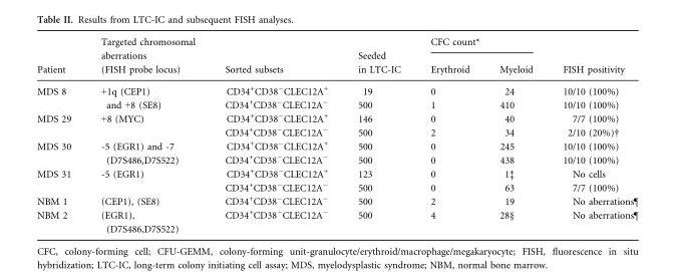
<table><thead><tr><td rowspan="2">Patient</td><td rowspan="2">Targeted chromosomal aberrations (FISH probe locus)</td><td rowspan="2">Sorted subsets</td><td rowspan="2">Seeded in LTC-IC</td><td colspan="2">CFC count*</td><td rowspan="2">FISH positivity</td></tr><tr><td>Erythroid</td><td>Myeloid</td></tr></thead><tbody><tr><td rowspan="2">MDS 8</td><td rowspan="2">+1q (CEP1) and +8 (SE8)</td><td>CD34<sup>+</sup>CD38<sup>−</sup>CLEC12A<sup>+</sup></td><td>19</td><td>0</td><td>24</td><td>10/10 (100%)</td></tr><tr><td>CD34<sup>+</sup>CD38<sup>−</sup>CLEC12A<sup>−</sup></td><td>500</td><td>1</td><td>410</td><td>10/10 (100%)</td></tr><tr><td rowspan="2">MDS 29</td><td rowspan="2">+8 (MYC)</td><td>CD34<sup>+</sup>CD38<sup>−</sup>CLEC12A<sup>+</sup></td><td>146</td><td>0</td><td>40</td><td>7/7 (100%)</td></tr><tr><td>CD34<sup>+</sup>CD38<sup>−</sup>CLEC12A<sup>−</sup></td><td>500</td><td>2</td><td>34</td><td>2/10 (20%)†</td></tr><tr><td rowspan="2">MDS 30</td><td rowspan="2">-5 (EGR1) and -7 (D7S486,D7S522)</td><td>CD34<sup>+</sup>CD38<sup>−</sup>CLEC12A<sup>+</sup></td><td>500</td><td>0</td><td>245</td><td>10/10 (100%)</td></tr><tr><td>CD34<sup>+</sup>CD38<sup>−</sup>CLEC12A<sup>−</sup></td><td>500</td><td>0</td><td>438</td><td>10/10 (100%)</td></tr><tr><td rowspan="2">MDS 31</td><td rowspan="2">-5 (EGR1)</td><td>CD34<sup>+</sup>CD38<sup>−</sup>CLEC12A<sup>+</sup></td><td>123</td><td>0</td><td>1‡</td><td>No cells</td></tr><tr><td>CD34<sup>+</sup>CD38<sup>−</sup>CLEC12A<sup>−</sup></td><td>500</td><td>0</td><td>63</td><td>7/7 (100%)</td></tr><tr><td>NBM 1</td><td>(CEP1), (SE8)</td><td>CD34<sup>+</sup>CD38<sup>−</sup>CLEC12A<sup>−</sup></td><td>500</td><td>2</td><td>19</td><td>No aberrations¶</td></tr><tr><td>NBM 2</td><td>(EGR1), (D7S486,D7S522)</td><td>CD34<sup>+</sup>CD38<sup>−</sup>CLEC12A<sup>−</sup></td><td>500</td><td>4</td><td>28§</td><td>No aberrations¶</td></tr></tbody></table>